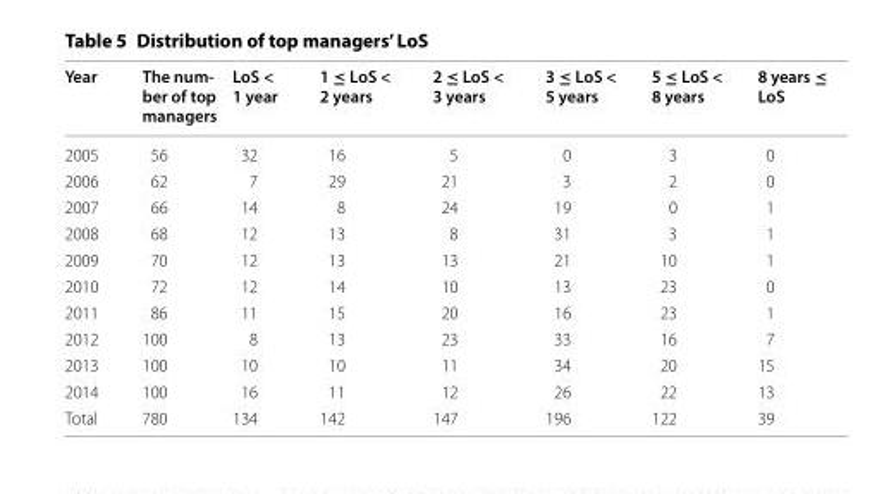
<table><thead><tr><td>Year</td><td>The num- ber of top managers</td><td>LoS &lt; 1 year</td><td>1 ≤ LoS &lt; 2 years</td><td>2 ≤ LoS &lt; 3 years</td><td>3 ≤ LoS &lt; 5 years</td><td>5 ≤ LoS &lt; 8 years</td><td>8 years ≤ LoS</td></tr></thead><tbody><tr><td>2005</td><td>56</td><td>32</td><td>16</td><td>5</td><td>0</td><td>3</td><td>0</td></tr><tr><td>2006</td><td>62</td><td>7</td><td>29</td><td>21</td><td>3</td><td>2</td><td>0</td></tr><tr><td>2007</td><td>66</td><td>14</td><td>8</td><td>24</td><td>19</td><td>0</td><td>1</td></tr><tr><td>2008</td><td>68</td><td>12</td><td>13</td><td>8</td><td>31</td><td>3</td><td>1</td></tr><tr><td>2009</td><td>70</td><td>12</td><td>13</td><td>13</td><td>21</td><td>10</td><td>1</td></tr><tr><td>2010</td><td>72</td><td>12</td><td>14</td><td>10</td><td>13</td><td>23</td><td>0</td></tr><tr><td>2011</td><td>86</td><td>11</td><td>15</td><td>20</td><td>16</td><td>23</td><td>1</td></tr><tr><td>2012</td><td>100</td><td>8</td><td>13</td><td>23</td><td>33</td><td>16</td><td>7</td></tr><tr><td>2013</td><td>100</td><td>10</td><td>10</td><td>11</td><td>34</td><td>20</td><td>15</td></tr><tr><td>2014</td><td>100</td><td>16</td><td>11</td><td>12</td><td>26</td><td>22</td><td>13</td></tr><tr><td>Total</td><td>780</td><td>134</td><td>142</td><td>147</td><td>196</td><td>122</td><td>39</td></tr></tbody></table>